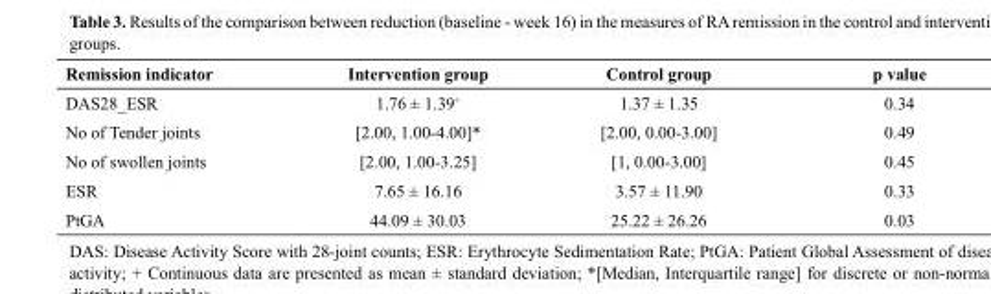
<table><thead><tr><td>Remission indicator</td><td>Intervention group</td><td>Control group</td><td>p value</td></tr></thead><tbody><tr><td>DAS28_ESR</td><td>1.76 ± 1.39<sup>+</sup></td><td>1.37 ± 1.35</td><td>0.34</td></tr><tr><td>No of Tender joints</td><td>[2.00, 1.00-4.00]*</td><td>[2.00, 0.00-3.00]</td><td>0.49</td></tr><tr><td>No of swollen joints</td><td>[2.00, 1.00-3.25]</td><td>[1, 0.00-3.00]</td><td>0.45</td></tr><tr><td>ESR</td><td>7.65 ± 16.16</td><td>3.57 ± 11.90</td><td>0.33</td></tr><tr><td>PtGA</td><td>44.09 ± 30.03</td><td>25.22 ± 26.26</td><td>0.03</td></tr></tbody></table>